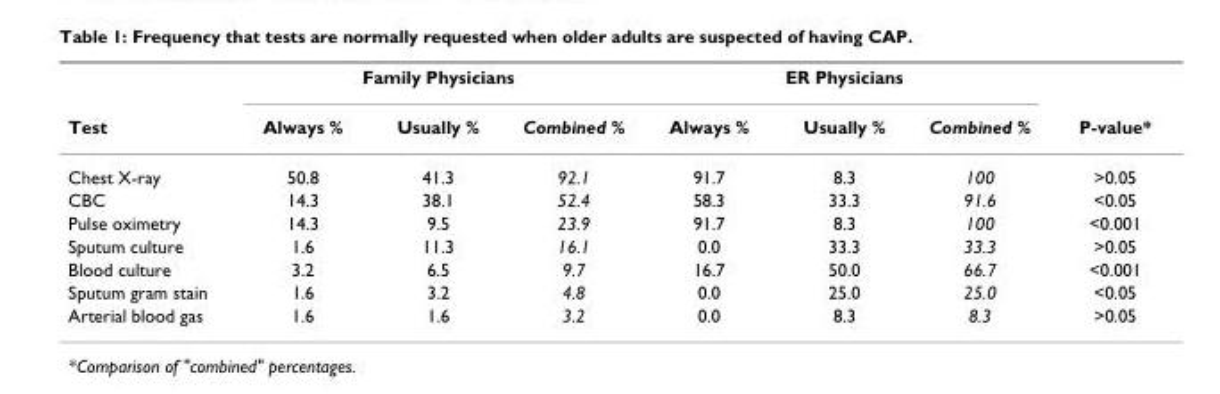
<table><thead><tr><td rowspan="2">Test</td><td colspan="3">Family Physicians</td><td colspan="3">ER Physicians</td><td rowspan="2">P-value*</td></tr><tr><td>Always %</td><td>Usually %</td><td>Combined %</td><td>Always %</td><td>Usually %</td><td>Combined %</td></tr></thead><tbody><tr><td>Chest X-ray</td><td>50.8</td><td>41.3</td><td>92.1</td><td>91.7</td><td>8.3</td><td>100</td><td>&gt;0.05</td></tr><tr><td>CBC</td><td>14.3</td><td>38.1</td><td>52.4</td><td>58.3</td><td>33.3</td><td>91.6</td><td>&lt;0.05</td></tr><tr><td>Pulse oximetry</td><td>14.3</td><td>9.5</td><td>23.9</td><td>91.7</td><td>8.3</td><td>100</td><td>&lt;0.001</td></tr><tr><td>Sputum culture</td><td>1.6</td><td>11.3</td><td>16.1</td><td>0.0</td><td>33.3</td><td>33.3</td><td>&gt;0.05</td></tr><tr><td>Blood culture</td><td>3.2</td><td>6.5</td><td>9.7</td><td>16.7</td><td>50.0</td><td>66.7</td><td>&lt;0.001</td></tr><tr><td>Sputum gram stain</td><td>1.6</td><td>3.2</td><td>4.8</td><td>0.0</td><td>25.0</td><td>25.0</td><td>&lt;0.05</td></tr><tr><td>Arterial blood gas</td><td>1.6</td><td>1.6</td><td>3.2</td><td>0.0</td><td>8.3</td><td>8.3</td><td>&gt;0.05</td></tr></tbody></table>